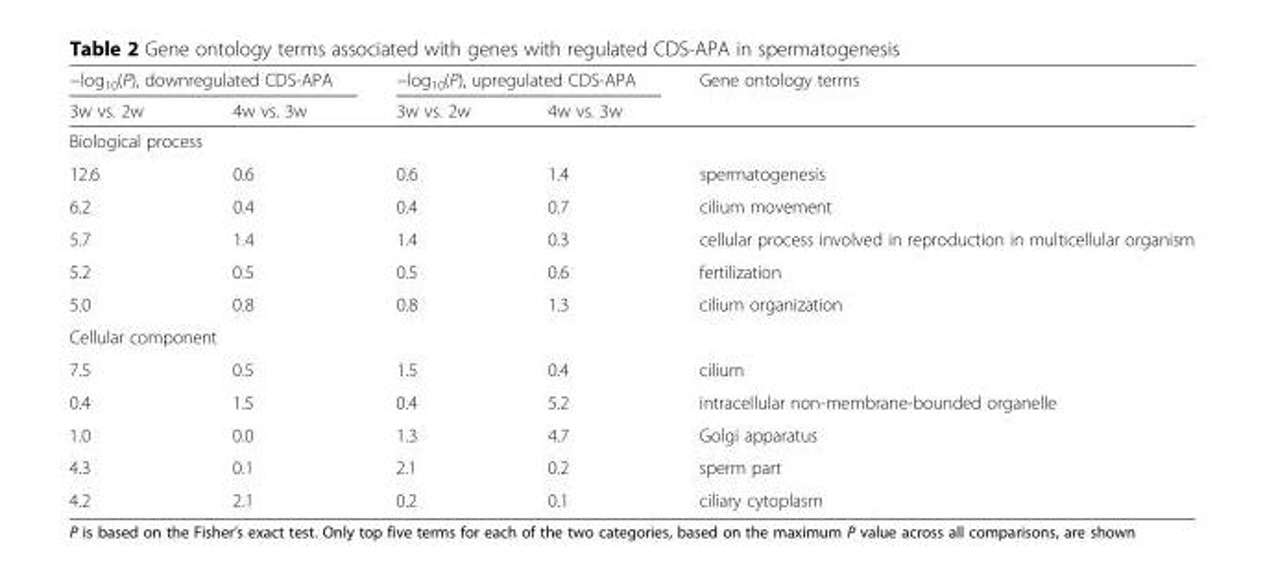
<table><thead><tr><td colspan="2">−log<sub>10</sub>(P), downregulated CDS-APA</td><td colspan="2">−log<sub>10</sub>(P), upregulated CDS-APA</td><td rowspan="2">Gene ontology terms</td></tr><tr><td>3w vs. 2w</td><td>4w vs. 3w</td><td>3w vs. 2w</td><td>4w vs. 3w</td></tr></thead><tbody><tr><td colspan="5">Biological process</td></tr><tr><td>12.6</td><td>0.6</td><td>0.6</td><td>1.4</td><td>spermatogenesis</td></tr><tr><td>6.2</td><td>0.4</td><td>0.4</td><td>0.7</td><td>cilium movement</td></tr><tr><td>5.7</td><td>1.4</td><td>1.4</td><td>0.3</td><td>cellular process involved in reproduction in multicellular organism</td></tr><tr><td>5.2</td><td>0.5</td><td>0.5</td><td>0.6</td><td>fertilization</td></tr><tr><td>5.0</td><td>0.8</td><td>0.8</td><td>1.3</td><td>cilium organization</td></tr><tr><td colspan="5">Cellular component</td></tr><tr><td>7.5</td><td>0.5</td><td>1.5</td><td>0.4</td><td>cilium</td></tr><tr><td>0.4</td><td>1.5</td><td>0.4</td><td>5.2</td><td>intracellular non-membrane-bounded organelle</td></tr><tr><td>1.0</td><td>0.0</td><td>1.3</td><td>4.7</td><td>Golgi apparatus</td></tr><tr><td>4.3</td><td>0.1</td><td>2.1</td><td>0.2</td><td>sperm part</td></tr><tr><td>4.2</td><td>2.1</td><td>0.2</td><td>0.1</td><td>ciliary cytoplasm</td></tr></tbody></table>